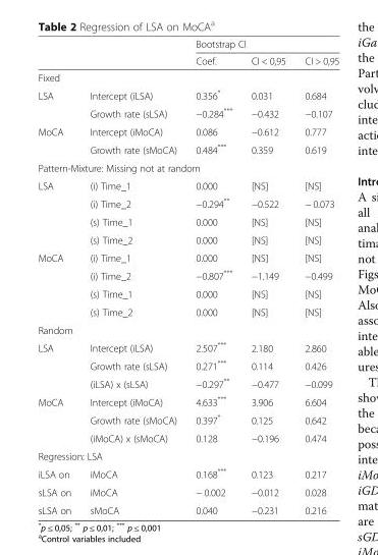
<table><thead><tr><td rowspan="2"></td><td rowspan="2"></td><td colspan="3">Bootstrap CI</td></tr><tr><td>Coef.</td><td>CI &lt; 0,95</td><td>CI &gt; 0,95</td></tr></thead><tbody><tr><td colspan="5">Fixed</td></tr><tr><td rowspan="2">LSA</td><td>Intercept (iLSA)</td><td>0.356*</td><td>0.031</td><td>0.684</td></tr><tr><td>Growth rate (sLSA)</td><td>−0.284***</td><td>−0.432</td><td>−0.107</td></tr><tr><td rowspan="2">MoCA</td><td>Intercept (iMoCA)</td><td>0.086</td><td>−0.612</td><td>0.777</td></tr><tr><td>Growth rate (sMoCA)</td><td>0.484***</td><td>0.359</td><td>0.619</td></tr><tr><td colspan="5">Pattern-Mixture: Missing not at random</td></tr><tr><td rowspan="4">LSA</td><td>(i) Time_1</td><td>0.000</td><td>[NS]</td><td>[NS]</td></tr><tr><td>(i) Time_2</td><td>−0.294**</td><td>−0.522</td><td>− 0.073</td></tr><tr><td>(s) Time_1</td><td>0.000</td><td>[NS]</td><td>[NS]</td></tr><tr><td>(s) Time_2</td><td>0.000</td><td>[NS]</td><td>[NS]</td></tr><tr><td rowspan="4">MoCA</td><td>(i) Time_1</td><td>0.000</td><td>[NS]</td><td>[NS]</td></tr><tr><td>(i) Time_2</td><td>−0.807***</td><td>−1.149</td><td>−0.499</td></tr><tr><td>(s) Time_1</td><td>0.000</td><td>[NS]</td><td>[NS]</td></tr><tr><td>(s) Time_2</td><td>0.000</td><td>[NS]</td><td>[NS]</td></tr><tr><td colspan="5">Random</td></tr><tr><td rowspan="3">LSA</td><td>Intercept (iLSA)</td><td>2.507***</td><td>2.180</td><td>2.860</td></tr><tr><td>Growth rate (sLSA)</td><td>0.271***</td><td>0.114</td><td>0.426</td></tr><tr><td>(iLSA) x (sLSA)</td><td>−0.297**</td><td>−0.477</td><td>−0.099</td></tr><tr><td rowspan="3">MoCA</td><td>Intercept (iMoCA)</td><td>4.633***</td><td>3.906</td><td>6.604</td></tr><tr><td>Growth rate (sMoCA)</td><td>0.397*</td><td>0.125</td><td>0.642</td></tr><tr><td>(iMoCA) x (sMoCA)</td><td>0.128</td><td>−0.196</td><td>0.474</td></tr><tr><td colspan="5">Regression: LSA</td></tr><tr><td>iLSA on</td><td>iMoCA</td><td>0.168***</td><td>0.123</td><td>0.217</td></tr><tr><td>sLSA on</td><td>iMoCA</td><td>− 0.002</td><td>−0.012</td><td>0.028</td></tr><tr><td>sLSA on</td><td>sMoCA</td><td>0.040</td><td>−0.231</td><td>0.216</td></tr></tbody></table>